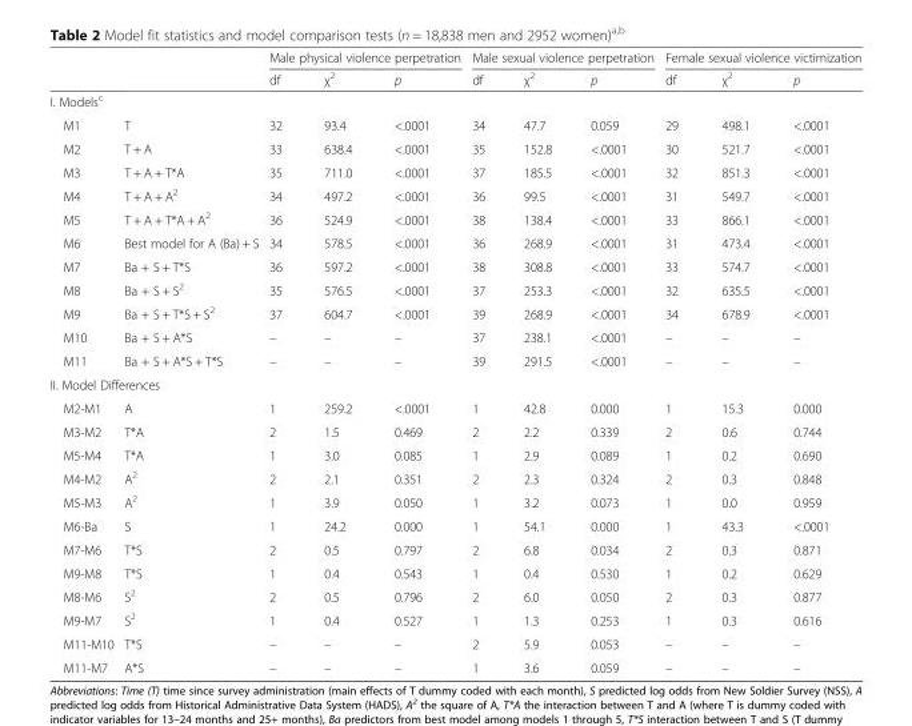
<table><thead><tr><td rowspan="2"></td><td rowspan="2"></td><td colspan="3">Male physical violence perpetration</td><td colspan="3">Male sexual violence perpetration</td><td colspan="3">Female sexual violence victimization</td></tr><tr><td>df</td><td>χ<sup>2</sup></td><td>p</td><td>df</td><td>χ<sup>2</sup></td><td>p</td><td>df</td><td>χ<sup>2</sup></td><td>p</td></tr></thead><tbody><tr><td colspan="11">I. Models<sup>c</sup></td></tr><tr><td>M1</td><td>T</td><td>32</td><td>93.4</td><td>&lt;.0001</td><td>34</td><td>47.7</td><td>0.059</td><td>29</td><td>498.1</td><td>&lt;.0001</td></tr><tr><td>M2</td><td>T + A</td><td>33</td><td>638.4</td><td>&lt;.0001</td><td>35</td><td>152.8</td><td>&lt;.0001</td><td>30</td><td>521.7</td><td>&lt;.0001</td></tr><tr><td>M3</td><td>T + A + T*A</td><td>35</td><td>711.0</td><td>&lt;.0001</td><td>37</td><td>185.5</td><td>&lt;.0001</td><td>32</td><td>851.3</td><td>&lt;.0001</td></tr><tr><td>M4</td><td>T + A + A<sup>2</sup></td><td>34</td><td>497.2</td><td>&lt;.0001</td><td>36</td><td>99.5</td><td>&lt;.0001</td><td>31</td><td>549.7</td><td>&lt;.0001</td></tr><tr><td>M5</td><td>T + A + T*A + A<sup>2</sup></td><td>36</td><td>524.9</td><td>&lt;.0001</td><td>38</td><td>138.4</td><td>&lt;.0001</td><td>33</td><td>866.1</td><td>&lt;.0001</td></tr><tr><td>M6</td><td>Best model for A (Ba) + S</td><td>34</td><td>578.5</td><td>&lt;.0001</td><td>36</td><td>268.9</td><td>&lt;.0001</td><td>31</td><td>473.4</td><td>&lt;.0001</td></tr><tr><td>M7</td><td>Ba + S + T*S</td><td>36</td><td>597.2</td><td>&lt;.0001</td><td>38</td><td>308.8</td><td>&lt;.0001</td><td>33</td><td>574.7</td><td>&lt;.0001</td></tr><tr><td>M8</td><td>Ba + S + S<sup>2</sup></td><td>35</td><td>576.5</td><td>&lt;.0001</td><td>37</td><td>253.3</td><td>&lt;.0001</td><td>32</td><td>635.5</td><td>&lt;.0001</td></tr><tr><td>M9</td><td>Ba + S + T*S + S<sup>2</sup></td><td>37</td><td>604.7</td><td>&lt;.0001</td><td>39</td><td>268.9</td><td>&lt;.0001</td><td>34</td><td>678.9</td><td>&lt;.0001</td></tr><tr><td>M10</td><td>Ba + S + A*S</td><td>–</td><td>–</td><td>–</td><td>37</td><td>238.1</td><td>&lt;.0001</td><td>–</td><td>–</td><td>–</td></tr><tr><td>M11</td><td>Ba + S + A*S + T*S</td><td>–</td><td>–</td><td>–</td><td>39</td><td>291.5</td><td>&lt;.0001</td><td>–</td><td>–</td><td>–</td></tr><tr><td colspan="11">II. Model Differences</td></tr><tr><td>M2-M1</td><td>A</td><td>1</td><td>259.2</td><td>&lt;.0001</td><td>1</td><td>42.8</td><td>0.000</td><td>1</td><td>15.3</td><td>0.000</td></tr><tr><td>M3-M2</td><td>T*A</td><td>2</td><td>1.5</td><td>0.469</td><td>2</td><td>2.2</td><td>0.339</td><td>2</td><td>0.6</td><td>0.744</td></tr><tr><td>M5-M4</td><td>T*A</td><td>1</td><td>3.0</td><td>0.085</td><td>1</td><td>2.9</td><td>0.089</td><td>1</td><td>0.2</td><td>0.690</td></tr><tr><td>M4-M2</td><td>A<sup>2</sup></td><td>2</td><td>2.1</td><td>0.351</td><td>2</td><td>2.3</td><td>0.324</td><td>2</td><td>0.3</td><td>0.848</td></tr><tr><td>M5-M3</td><td>A<sup>2</sup></td><td>1</td><td>3.9</td><td>0.050</td><td>1</td><td>3.2</td><td>0.073</td><td>1</td><td>0.0</td><td>0.959</td></tr><tr><td>M6-Ba</td><td>S</td><td>1</td><td>24.2</td><td>0.000</td><td>1</td><td>54.1</td><td>0.000</td><td>1</td><td>43.3</td><td>&lt;.0001</td></tr><tr><td>M7-M6</td><td>T*S</td><td>2</td><td>0.5</td><td>0.797</td><td>2</td><td>6.8</td><td>0.034</td><td>2</td><td>0.3</td><td>0.871</td></tr><tr><td>M9-M8</td><td>T*S</td><td>1</td><td>0.4</td><td>0.543</td><td>1</td><td>0.4</td><td>0.530</td><td>1</td><td>0.2</td><td>0.629</td></tr><tr><td>M8-M6</td><td>S<sup>2</sup></td><td>2</td><td>0.5</td><td>0.796</td><td>2</td><td>6.0</td><td>0.050</td><td>2</td><td>0.3</td><td>0.877</td></tr><tr><td>M9-M7</td><td>S<sup>2</sup></td><td>1</td><td>0.4</td><td>0.527</td><td>1</td><td>1.3</td><td>0.253</td><td>1</td><td>0.3</td><td>0.616</td></tr><tr><td>M11-M10</td><td>T*S</td><td>–</td><td>–</td><td>–</td><td>2</td><td>5.9</td><td>0.053</td><td>–</td><td>–</td><td>–</td></tr><tr><td>M11-M7</td><td>A*S</td><td>–</td><td>–</td><td>–</td><td>1</td><td>3.6</td><td>0.059</td><td>–</td><td>–</td><td>–</td></tr></tbody></table>